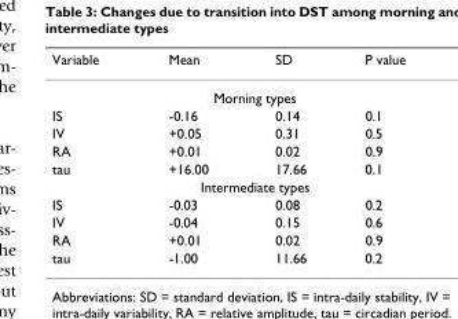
<table><thead><tr><td>Variable</td><td>Mean</td><td>SD</td><td>P value</td></tr></thead><tbody><tr><td colspan="4">Morning types</td></tr><tr><td>IS</td><td>-0.16</td><td>0.14</td><td>0.1</td></tr><tr><td>IV</td><td>+0.05</td><td>0.31</td><td>0.5</td></tr><tr><td>RA</td><td>+0.01</td><td>0.02</td><td>0.9</td></tr><tr><td>tau</td><td>+16.00</td><td>17.66</td><td>0.1</td></tr><tr><td colspan="4">Intermediate types</td></tr><tr><td>IS</td><td>-0.03</td><td>0.08</td><td>0.2</td></tr><tr><td>IV</td><td>-0.04</td><td>0.15</td><td>0.6</td></tr><tr><td>RA</td><td>+0.01</td><td>0.02</td><td>0.9</td></tr><tr><td>tau</td><td>-1.00</td><td>11.66</td><td>0.2</td></tr></tbody></table>